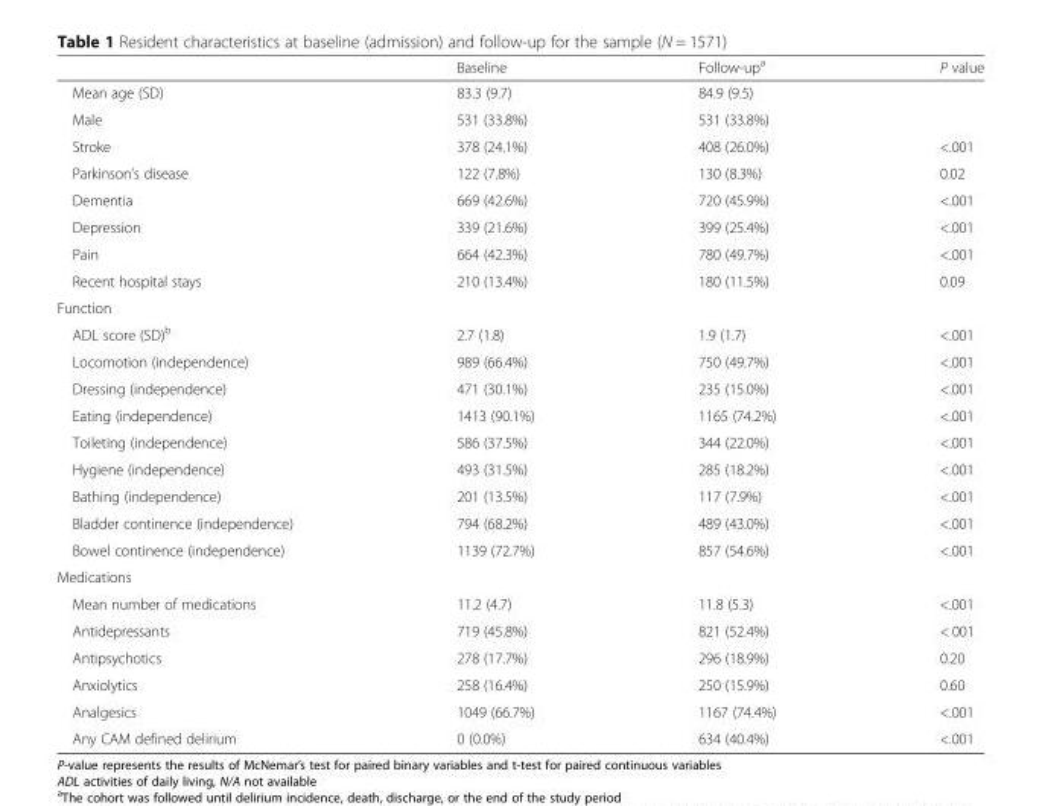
<table><thead><tr><td></td><td>Baseline</td><td>Follow-up<sup>a</sup></td><td>P value</td></tr></thead><tbody><tr><td>Mean age (SD)</td><td>83.3 (9.7)</td><td>84.9 (9.5)</td><td></td></tr><tr><td>Male</td><td>531 (33.8%)</td><td>531 (33.8%)</td><td></td></tr><tr><td>Stroke</td><td>378 (24.1%)</td><td>408 (26.0%)</td><td>&lt;.001</td></tr><tr><td>Parkinson’s disease</td><td>122 (7.8%)</td><td>130 (8.3%)</td><td>0.02</td></tr><tr><td>Dementia</td><td>669 (42.6%)</td><td>720 (45.9%)</td><td>&lt;.001</td></tr><tr><td>Depression</td><td>339 (21.6%)</td><td>399 (25.4%)</td><td>&lt;.001</td></tr><tr><td>Pain</td><td>664 (42.3%)</td><td>780 (49.7%)</td><td>&lt;.001</td></tr><tr><td>Recent hospital stays</td><td>210 (13.4%)</td><td>180 (11.5%)</td><td>0.09</td></tr><tr><td colspan="4">Function</td></tr><tr><td>ADL score (SD)<sup>b</sup></td><td>2.7 (1.8)</td><td>1.9 (1.7)</td><td>&lt;.001</td></tr><tr><td>Locomotion (independence)</td><td>989 (66.4%)</td><td>750 (49.7%)</td><td>&lt;.001</td></tr><tr><td>Dressing (independence)</td><td>471 (30.1%)</td><td>235 (15.0%)</td><td>&lt;.001</td></tr><tr><td>Eating (independence)</td><td>1413 (90.1%)</td><td>1165 (74.2%)</td><td>&lt;.001</td></tr><tr><td>Toileting (independence)</td><td>586 (37.5%)</td><td>344 (22.0%)</td><td>&lt;.001</td></tr><tr><td>Hygiene (independence)</td><td>493 (31.5%)</td><td>285 (18.2%)</td><td>&lt;.001</td></tr><tr><td>Bathing (independence)</td><td>201 (13.5%)</td><td>117 (7.9%)</td><td>&lt;.001</td></tr><tr><td>Bladder continence (independence)</td><td>794 (68.2%)</td><td>489 (43.0%)</td><td>&lt;.001</td></tr><tr><td>Bowel continence (independence)</td><td>1139 (72.7%)</td><td>857 (54.6%)</td><td>&lt;.001</td></tr><tr><td colspan="4">Medications</td></tr><tr><td>Mean number of medications</td><td>11.2 (4.7)</td><td>11.8 (5.3)</td><td>&lt;.001</td></tr><tr><td>Antidepressants</td><td>719 (45.8%)</td><td>821 (52.4%)</td><td>&lt; 001</td></tr><tr><td>Antipsychotics</td><td>278 (17.7%)</td><td>296 (18.9%)</td><td>0.20</td></tr><tr><td>Anxiolytics</td><td>258 (16.4%)</td><td>250 (15.9%)</td><td>0.60</td></tr><tr><td>Analgesics</td><td>1049 (66.7%)</td><td>1167 (74.4%)</td><td>&lt;.001</td></tr><tr><td>Any CAM defined delirium</td><td>0 (0.0%)</td><td>634 (40.4%)</td><td>&lt;.001</td></tr></tbody></table>